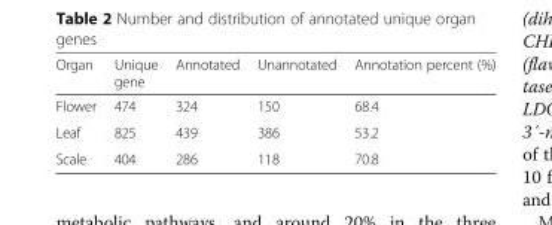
<table><thead><tr><td>Organ</td><td>Unique gene</td><td>Annotated</td><td>Unannotated</td><td>Annotation percent (%)</td></tr></thead><tbody><tr><td>Flower</td><td>474</td><td>324</td><td>150</td><td>68.4</td></tr><tr><td>Leaf</td><td>825</td><td>439</td><td>386</td><td>53.2</td></tr><tr><td>Scale</td><td>404</td><td>286</td><td>118</td><td>70.8</td></tr></tbody></table>